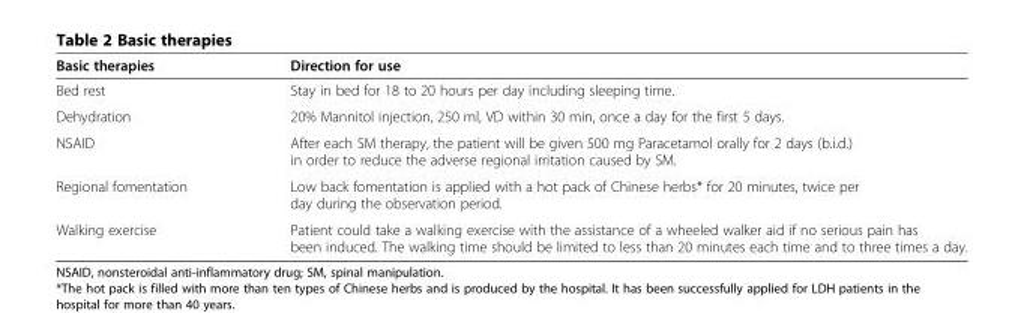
<table><thead><tr><td>Basic therapies</td><td>Direction for use</td></tr></thead><tbody><tr><td>Bed rest</td><td>Stay in bed for 18 to 20 hours per day including sleeping time.</td></tr><tr><td>Dehydration</td><td>20% Mannitol injection, 250 ml, VD within 30 min, once a day for the first 5 days.</td></tr><tr><td>NSAID</td><td>After each SM therapy, the patient will be given 500 mg Paracetamol orally for 2 days (b.i.d.) in order to reduce the adverse regional irritation caused by SM.</td></tr><tr><td>Regional fomentation</td><td>Low back fomentation is applied with a hot pack of Chinese herbs* for 20 minutes, twice per day during the observation period.</td></tr><tr><td>Walking exercise</td><td>Patient could take a walking exercise with the assistance of a wheeled walker aid if no serious pain has been induced. The walking time should be limited to less than 20 minutes each time and to three times a day.</td></tr></tbody></table>